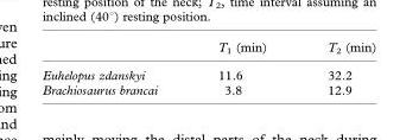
<table><thead><tr><td></td><td>T<sub>1</sub> (min)</td><td>T<sub>2</sub> (min)</td></tr></thead><tbody><tr><td>Euhelopus zdanskyi</td><td>11.6</td><td>32.2</td></tr><tr><td>Brachiosaurus brancai</td><td>3.8</td><td>12.9</td></tr></tbody></table>